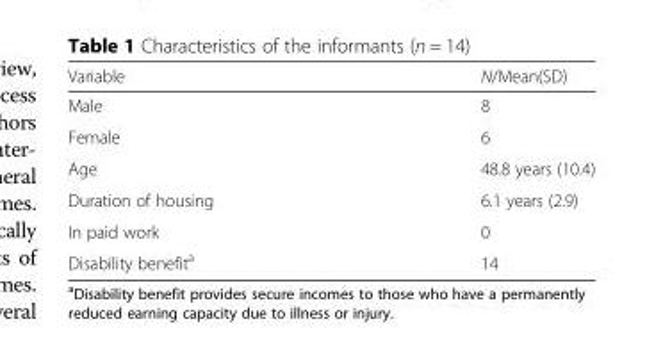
<table><thead><tr><td>Variable</td><td>N/Mean(SD)</td></tr></thead><tbody><tr><td>Male</td><td>8</td></tr><tr><td>Female</td><td>6</td></tr><tr><td>Age</td><td>48.8 years (10.4)</td></tr><tr><td>Duration of housing</td><td>6.1 years (2.9)</td></tr><tr><td>In paid work</td><td>0</td></tr><tr><td>Disability benefit<sup>a</sup></td><td>14</td></tr></tbody></table>